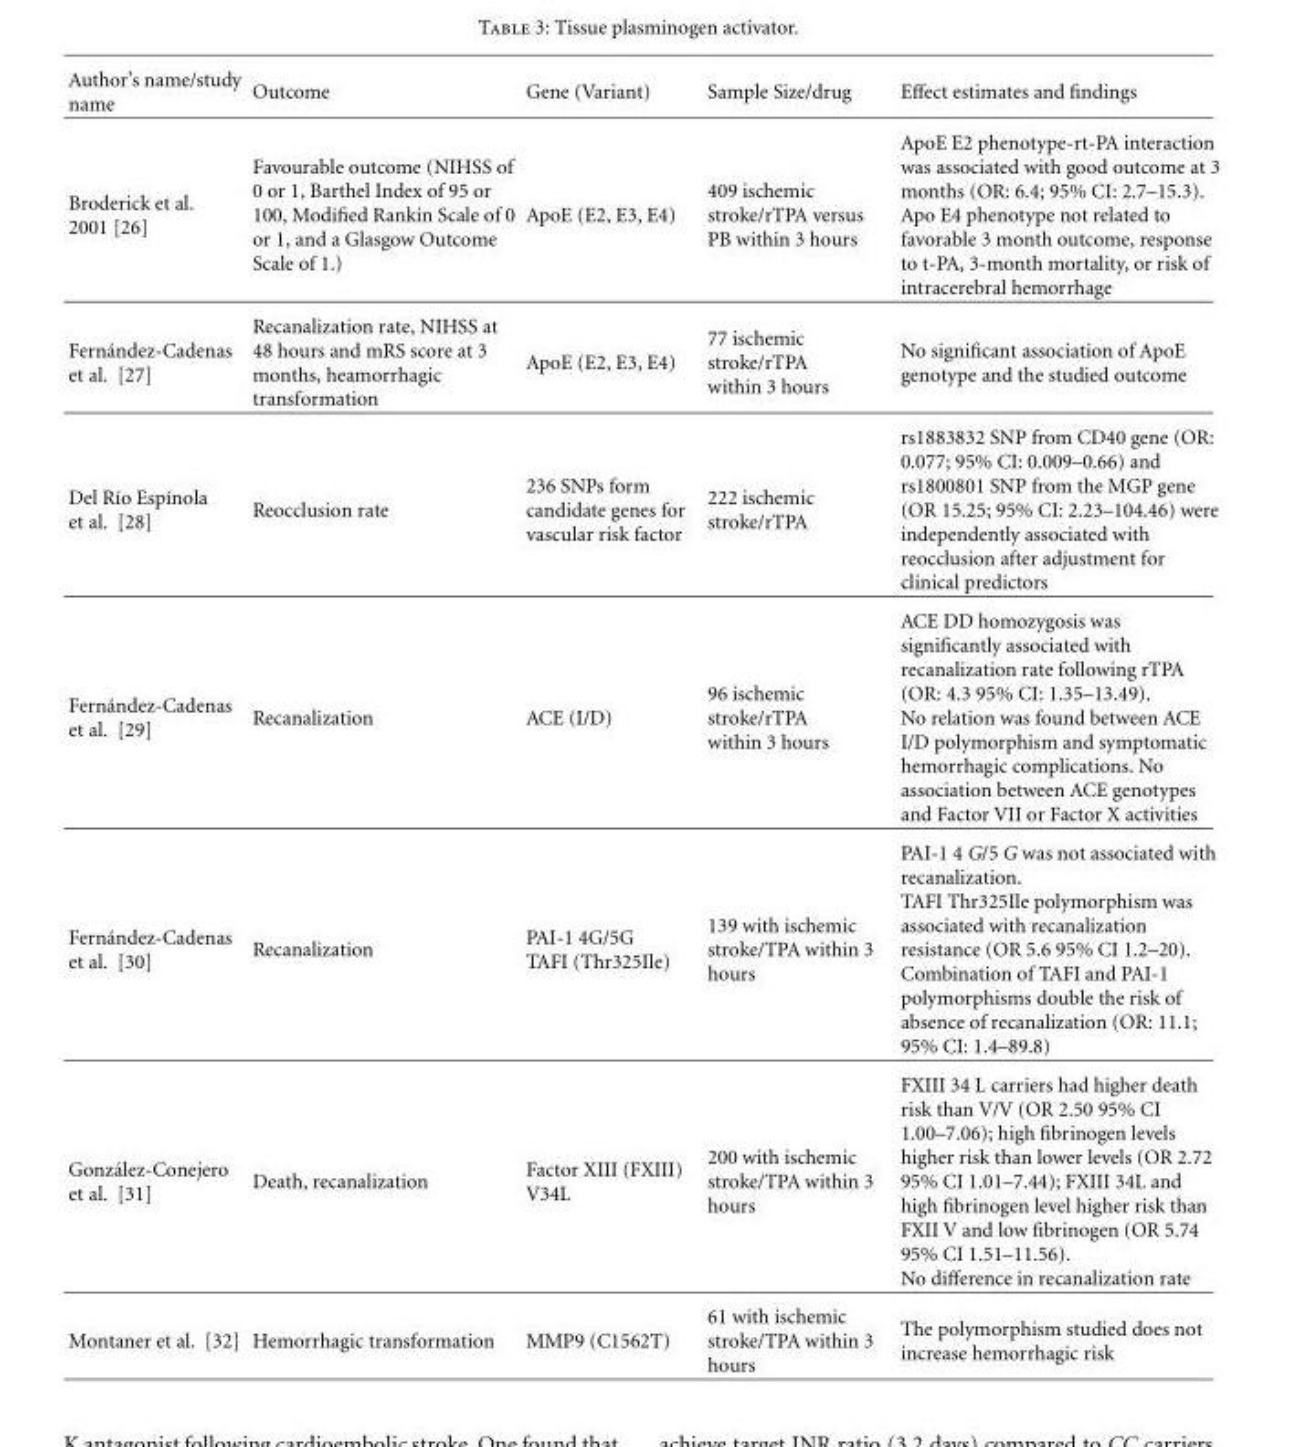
<table><thead><tr><td>Author’s name/study name</td><td>Outcome</td><td>Gene (Variant)</td><td>Sample Size/drug</td><td>Effect estimates and findings</td></tr></thead><tbody><tr><td>Broderick et al. 2001 [26]</td><td>Favourable outcome (NIHSS of 0 or 1, Barthel Index of 95 or 100, Modified Rankin Scale of 0 or 1, and a Glasgow Outcome Scale of 1.)</td><td>ApoE (E2, E3, E4)</td><td>409 ischemic stroke/rTPA versus PB within 3 hours</td><td>ApoE E2 phenotype-rt-PA interaction was associated with good outcome at 3 months (OR: 6.4; 95% CI: 2.7–15.3). Apo E4 phenotype not related to favorable 3 month outcome, response to t-PA, 3-month mortality, or risk of intracerebral hemorrhage</td></tr><tr><td>Fern´andez-Cadenas et al. [27]</td><td>Recanalization rate, NIHSS at 48 hours and mRS score at 3 months, heamorrhagic transformation</td><td>ApoE (E2, E3, E4)</td><td>77 ischemic stroke/rTPA within 3 hours</td><td>No significant association of ApoE genotype and the studied outcome</td></tr><tr><td>Del R´ıo Esp´ınola et al. [28]</td><td>Reocclusion rate</td><td>236 SNPs form candidate genes for vascular risk factor</td><td>222 ischemic stroke/rTPA</td><td>rs1883832 SNP from CD40 gene (OR: 0.077; 95% CI: 0.009–0.66) and rs1800801 SNP from the MGP gene (OR 15.25; 95% CI: 2.23–104.46) were independently associated with reocclusion after adjustment for clinical predictors</td></tr><tr><td>Fern´andez-Cadenas et al. [29]</td><td>Recanalization</td><td>ACE (I/D)</td><td>96 ischemic stroke/rTPA within 3 hours</td><td>ACE DD homozygosis was significantly associated with recanalization rate following rTPA (OR: 4.3 95% CI: 1.35–13.49). No relation was found between ACE I/D polymorphism and symptomatic hemorrhagic complications. No association between ACE genotypes and Factor VII or Factor X activities</td></tr><tr><td>Fern´andez-Cadenas et al. [30]</td><td>Recanalization</td><td>PAI-1 4G/5G TAFI (Thr325Ile)</td><td>139 with ischemic stroke/TPA within 3 hours</td><td>PAI-1 4 G/5 G was not associated with recanalization. TAFI Thr325Ile polymorphism was associated with recanalization resistance (OR 5.6 95% CI 1.2–20). Combination of TAFI and PAI-1 polymorphisms double the risk of absence of recanalization (OR: 11.1; 95% CI: 1.4–89.8)</td></tr><tr><td>Gonz´alez-Conejero et al. [31]</td><td>Death, recanalization</td><td>Factor XIII (FXIII) V34L</td><td>200 with ischemic stroke/TPA within 3 hours</td><td>FXIII 34 L carriers had higher death risk than V/V (OR 2.50 95% CI 1.00–7.06); high fibrinogen levels higher risk than lower levels (OR 2.72 95% CI 1.01–7.44); FXIII 34L and high fibrinogen level higher risk than FXII V and low fibrinogen (OR 5.74 95% CI 1.51–11.56). No difference in recanalization rate</td></tr><tr><td>Montaner et al. [32]</td><td>Hemorrhagic transformation</td><td>MMP9 (C1562T)</td><td>61 with ischemic stroke/TPA within 3 hours</td><td>The polymorphism studied does not increase hemorrhagic risk</td></tr></tbody></table>